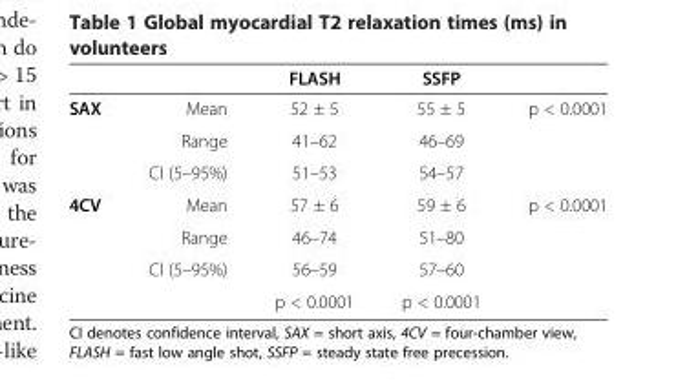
<table><thead><tr><td></td><td></td><td>FLASH</td><td>SSFP</td><td></td></tr></thead><tbody><tr><td rowspan="3">SAX</td><td>Mean</td><td>52 ± 5</td><td>55 ± 5</td><td>p &lt; 0.0001</td></tr><tr><td>Range</td><td>41–62</td><td>46–69</td><td></td></tr><tr><td>CI (5–95%)</td><td>51–53</td><td>54–57</td><td></td></tr><tr><td rowspan="4">4CV</td><td>Mean</td><td>57 ± 6</td><td>59 ± 6</td><td>p &lt; 0.0001</td></tr><tr><td>Range</td><td>46–74</td><td>51–80</td><td></td></tr><tr><td>CI (5–95%)</td><td>56–59</td><td>57–60</td><td></td></tr><tr><td></td><td>p &lt; 0.0001</td><td>p &lt; 0.0001</td><td></td></tr></tbody></table>